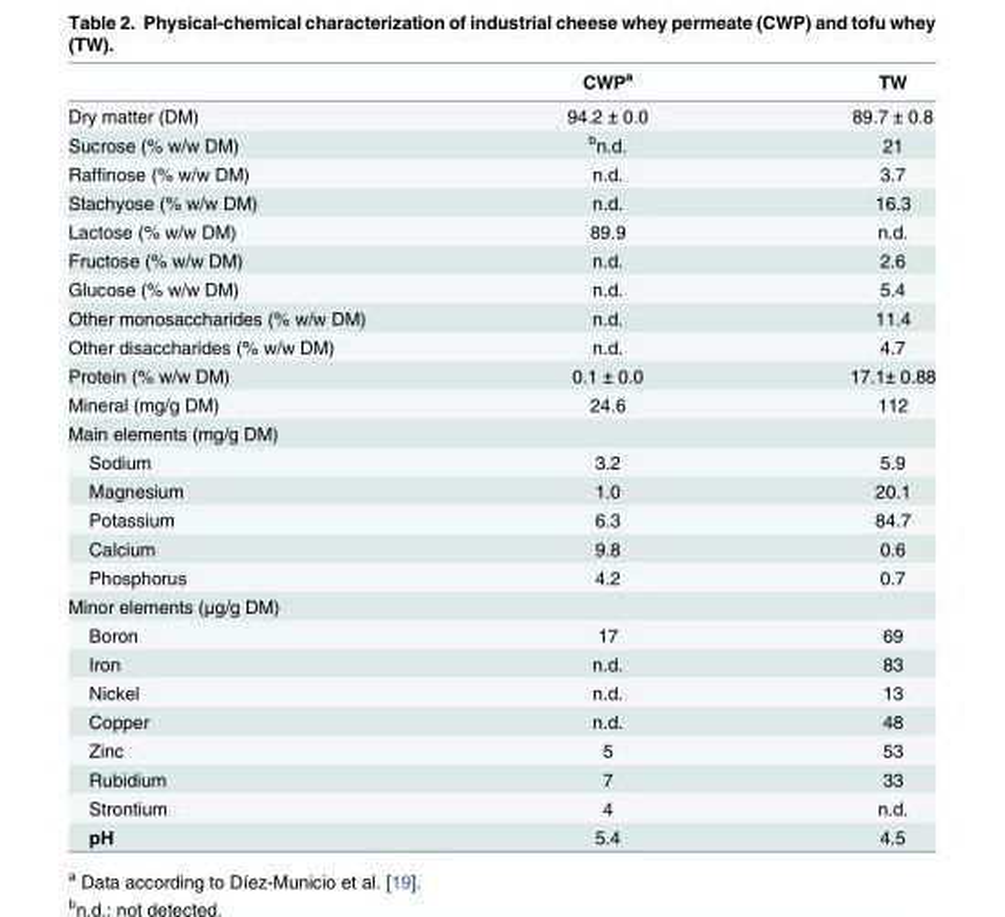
<table><thead><tr><td></td><td>CWP<sup>a</sup></td><td>TW</td></tr></thead><tbody><tr><td>Dry matter (DM)</td><td>94.2 ± 0.0</td><td>89.7 ± 0.8</td></tr><tr><td>Sucrose (% w/w DM)</td><td><sup>b</sup>n.d.</td><td>21</td></tr><tr><td>Raffinose (% w/w DM)</td><td>n.d.</td><td>3.7</td></tr><tr><td>Stachyose (% w/w DM)</td><td>n.d.</td><td>16.3</td></tr><tr><td>Lactose (% w/w DM)</td><td>89.9</td><td>n.d.</td></tr><tr><td>Fructose (% w/w DM)</td><td>n.d.</td><td>2.6</td></tr><tr><td>Glucose (% w/w DM)</td><td>n.d.</td><td>5.4</td></tr><tr><td>Other monosaccharides (% w/w DM)</td><td>n.d.</td><td>11.4</td></tr><tr><td>Other disaccharides (% w/w DM)</td><td>n.d.</td><td>4.7</td></tr><tr><td>Protein (% w/w DM)</td><td>0.1 ± 0.0</td><td>17.1± 0.88</td></tr><tr><td>Mineral (mg/g DM)</td><td>24.6</td><td>112</td></tr><tr><td colspan="3">Main elements (mg/g DM)</td></tr><tr><td>Sodium</td><td>3.2</td><td>5.9</td></tr><tr><td>Magnesium</td><td>1.0</td><td>20.1</td></tr><tr><td>Potassium</td><td>6.3</td><td>84.7</td></tr><tr><td>Calcium</td><td>9.8</td><td>0.6</td></tr><tr><td>Phosphorus</td><td>4.2</td><td>0.7</td></tr><tr><td colspan="3">Minor elements (μg/g DM)</td></tr><tr><td>Boron</td><td>17</td><td>69</td></tr><tr><td>Iron</td><td>n.d.</td><td>83</td></tr><tr><td>Nickel</td><td>n.d.</td><td>13</td></tr><tr><td>Copper</td><td>n.d.</td><td>48</td></tr><tr><td>Zinc</td><td>5</td><td>53</td></tr><tr><td>Rubidium</td><td>7</td><td>33</td></tr><tr><td>Strontium</td><td>4</td><td>n.d.</td></tr><tr><td>pH</td><td>5.4</td><td>4.5</td></tr></tbody></table>